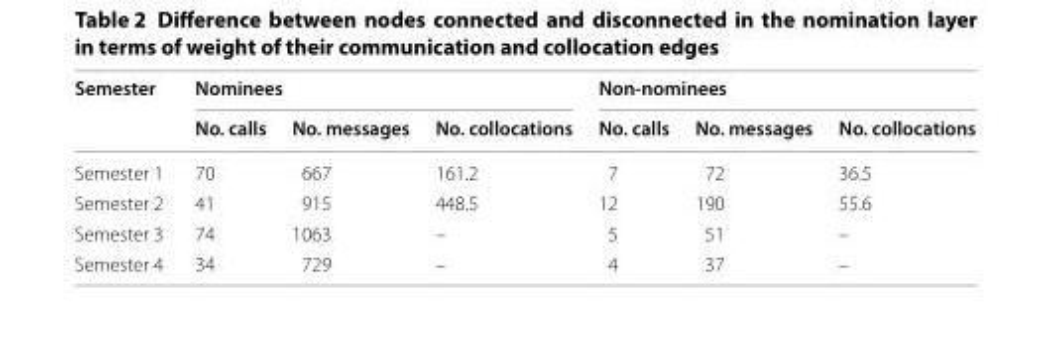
<table><thead><tr><td rowspan="2">Semester</td><td colspan="3">Nominees</td><td colspan="3">Non-nominees</td></tr><tr><td>No. calls</td><td>No. messages</td><td>No. collocations</td><td>No. calls</td><td>No. messages</td><td>No. collocations</td></tr></thead><tbody><tr><td>Semester 1</td><td>70</td><td>667</td><td>161.2</td><td>7</td><td>72</td><td>36.5</td></tr><tr><td>Semester 2</td><td>41</td><td>915</td><td>448.5</td><td>12</td><td>190</td><td>55.6</td></tr><tr><td>Semester 3</td><td>74</td><td>1063</td><td>–</td><td>5</td><td>51</td><td>–</td></tr><tr><td>Semester 4</td><td>34</td><td>729</td><td>–</td><td>4</td><td>37</td><td>–</td></tr></tbody></table>